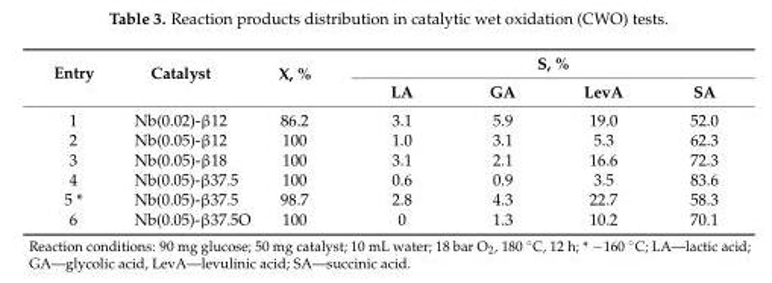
<table><thead><tr><td rowspan="2">Entry</td><td rowspan="2">Catalyst</td><td rowspan="2">X, %</td><td colspan="4">S, %</td></tr><tr><td>LA</td><td>GA</td><td>LevA</td><td>SA</td></tr></thead><tbody><tr><td>1</td><td>Nb(0.02)-β12</td><td>86.2</td><td>3.1</td><td>5.9</td><td>19.0</td><td>52.0</td></tr><tr><td>2</td><td>Nb(0.05)-β12</td><td>100</td><td>1.0</td><td>3.1</td><td>5.3</td><td>62.3</td></tr><tr><td>3</td><td>Nb(0.05)-β18</td><td>100</td><td>3.1</td><td>2.1</td><td>16.6</td><td>72.3</td></tr><tr><td>4</td><td>Nb(0.05)-β37.5</td><td>100</td><td>0.6</td><td>0.9</td><td>3.5</td><td>83.6</td></tr><tr><td>5 *</td><td>Nb(0.05)-β37.5</td><td>98.7</td><td>2.8</td><td>4.3</td><td>22.7</td><td>58.3</td></tr><tr><td>6</td><td>Nb(0.05)-β37.5O</td><td>100</td><td>0</td><td>1.3</td><td>10.2</td><td>70.1</td></tr></tbody></table>